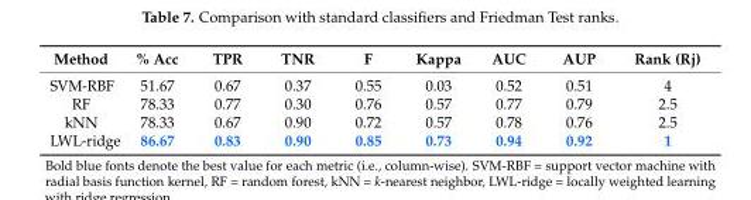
<table><thead><tr><td>Method</td><td>% Acc</td><td>TPR</td><td>TNR</td><td>F</td><td>Kappa</td><td>AUC</td><td>AUP</td><td>Rank (Rj)</td></tr></thead><tbody><tr><td>SVM-RBF</td><td>51.67</td><td>0.67</td><td>0.37</td><td>0.55</td><td>0.03</td><td>0.52</td><td>0.51</td><td>4</td></tr><tr><td>RF</td><td>78.33</td><td>0.77</td><td>0.30</td><td>0.76</td><td>0.57</td><td>0.77</td><td>0.79</td><td>2.5</td></tr><tr><td>kNN</td><td>78.33</td><td>0.67</td><td>0.90</td><td>0.72</td><td>0.57</td><td>0.78</td><td>0.76</td><td>2.5</td></tr><tr><td>LWL-ridge</td><td>86.67</td><td>0.83</td><td>0.90</td><td>0.85</td><td>0.73</td><td>0.94</td><td>0.92</td><td>1</td></tr></tbody></table>